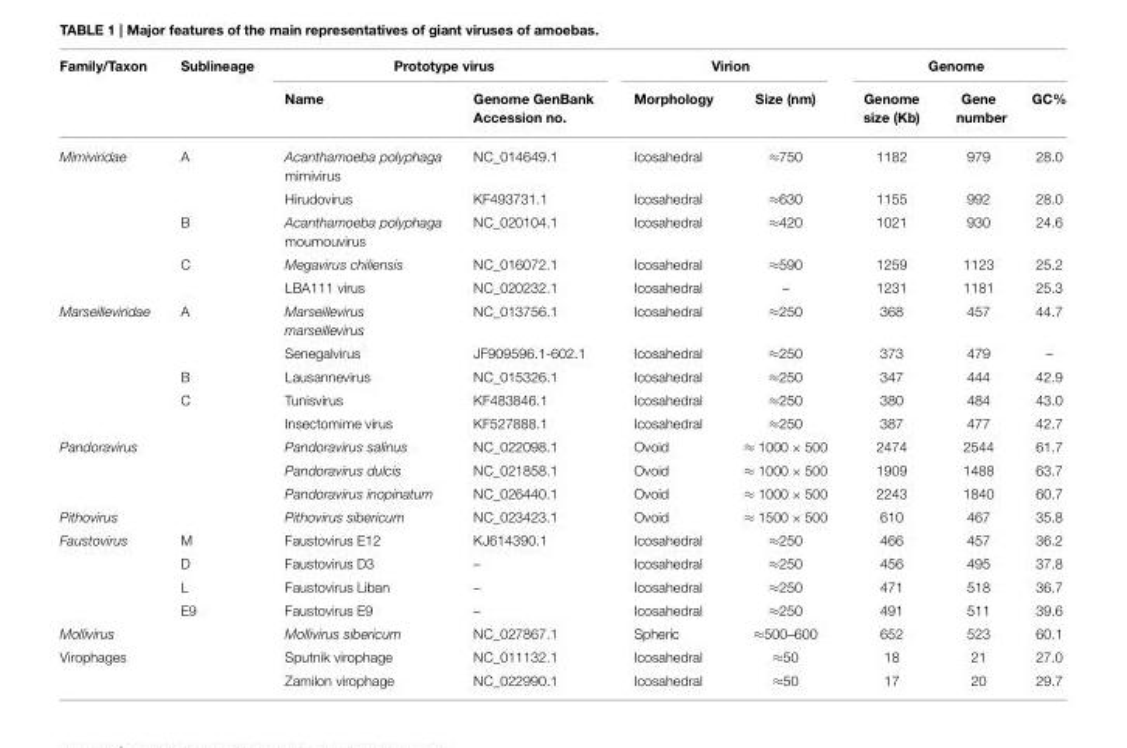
<table><thead><tr><td rowspan="2">Family/Taxon</td><td rowspan="2">Sublineage</td><td colspan="2">Prototype virus</td><td colspan="2">Virion</td><td colspan="3">Genome</td></tr><tr><td>Name</td><td>Genome GenBank Accession no.</td><td>Morphology</td><td>Size (nm)</td><td>Genome size (Kb)</td><td>Gene number</td><td>GC%</td></tr></thead><tbody><tr><td rowspan="5">Mimiviridae</td><td>A</td><td>Acanthamoeba polyphaga mimivirus</td><td>NC_014649.1</td><td>Icosahedral</td><td>≈750</td><td>1182</td><td>979</td><td>28.0</td></tr><tr><td></td><td>Hirudovirus</td><td>KF493731.1</td><td>Icosahedral</td><td>≈630</td><td>1155</td><td>992</td><td>28.0</td></tr><tr><td>B</td><td>Acanthamoeba polyphaga moumouvirus</td><td>NC_020104.1</td><td>Icosahedral</td><td>≈420</td><td>1021</td><td>930</td><td>24.6</td></tr><tr><td>C</td><td>Megavirus chiliensis</td><td>NC_016072.1</td><td>Icosahedral</td><td>≈590</td><td>1259</td><td>1123</td><td>25.2</td></tr><tr><td></td><td>LBA111 virus</td><td>NC_020232.1</td><td>Icosahedral</td><td>–</td><td>1231</td><td>1181</td><td>25.3</td></tr><tr><td rowspan="5">Marseilleviridae</td><td>A</td><td>Marseillevirus marseillevirus</td><td>NC_013756.1</td><td>Icosahedral</td><td>≈250</td><td>368</td><td>457</td><td>44.7</td></tr><tr><td></td><td>Senegalvirus</td><td>JF909596.1-602.1</td><td>Icosahedral</td><td>≈250</td><td>373</td><td>479</td><td>–</td></tr><tr><td>B</td><td>Lausannevirus</td><td>NC_015326.1</td><td>Icosahedral</td><td>≈250</td><td>347</td><td>444</td><td>42.9</td></tr><tr><td>C</td><td>Tunisvirus</td><td>KF483846.1</td><td>Icosahedral</td><td>≈250</td><td>380</td><td>484</td><td>43.0</td></tr><tr><td></td><td>Insectomime virus</td><td>KF527888.1</td><td>Icosahedral</td><td>≈250</td><td>387</td><td>477</td><td>42.7</td></tr><tr><td rowspan="3">Pandoravirus</td><td></td><td>Pandoravirus salinus</td><td>NC_022098.1</td><td>Ovoid</td><td>≈ 1000 × 500</td><td>2474</td><td>2544</td><td>61.7</td></tr><tr><td></td><td>Pandoravirus dulcis</td><td>NC_021858.1</td><td>Ovoid</td><td>≈ 1000 × 500</td><td>1909</td><td>1488</td><td>63.7</td></tr><tr><td></td><td>Pandoravirus inopinatum</td><td>NC_026440.1</td><td>Ovoid</td><td>≈ 1000 × 500</td><td>2243</td><td>1840</td><td>60.7</td></tr><tr><td>Pithovirus</td><td></td><td>Pithovirus sibericum</td><td>NC_023423.1</td><td>Ovoid</td><td>≈ 1500 × 500</td><td>610</td><td>467</td><td>35.8</td></tr><tr><td rowspan="4">Faustovirus</td><td>M</td><td>Faustovirus E12</td><td>KJ614390.1</td><td>Icosahedral</td><td>≈250</td><td>466</td><td>457</td><td>36.2</td></tr><tr><td>D</td><td>Faustovirus D3</td><td>–</td><td>Icosahedral</td><td>≈250</td><td>456</td><td>495</td><td>37.8</td></tr><tr><td>L</td><td>Faustovirus Liban</td><td>–</td><td>Icosahedral</td><td>≈250</td><td>471</td><td>518</td><td>36.7</td></tr><tr><td>E9</td><td>Faustovirus E9</td><td>–</td><td>Icosahedral</td><td>≈250</td><td>491</td><td>511</td><td>39.6</td></tr><tr><td>Mollivirus</td><td></td><td>Mollivirus sibericum</td><td>NC_027867.1</td><td>Spheric</td><td>≈500–600</td><td>652</td><td>523</td><td>60.1</td></tr><tr><td rowspan="2">Virophages</td><td></td><td>Sputnik virophage</td><td>NC_011132.1</td><td>Icosahedral</td><td>≈50</td><td>18</td><td>21</td><td>27.0</td></tr><tr><td></td><td>Zamilon virophage</td><td>NC_022990.1</td><td>Icosahedral</td><td>≈50</td><td>17</td><td>20</td><td>29.7</td></tr></tbody></table>